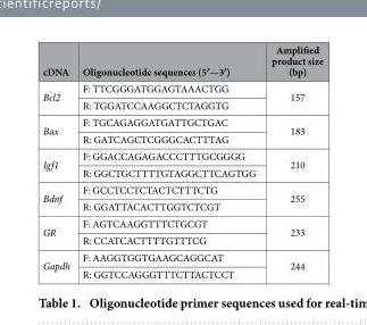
<table><thead><tr><td>cDNA</td><td>Oligonucleotide sequences (5′—3′)</td><td>Amplified product size (bp)</td></tr></thead><tbody><tr><td rowspan="2">Bcl2</td><td>F: TTCGGGATGGAGTAAACTGG</td><td rowspan="2">157</td></tr><tr><td>R: TGGATCCAAGGCTCTAGGTG</td></tr><tr><td rowspan="2">Bax</td><td>F: TGCAGAGGATGATTGCTGAC</td><td rowspan="2">183</td></tr><tr><td>R: GATCAGCTCGGGCACTTTAG</td></tr><tr><td rowspan="2">Igf1</td><td>F: GGACCAGAGACCCTTTGCGGGG</td><td rowspan="2">210</td></tr><tr><td>R: GGCTGCTTTTGTAGGCTTCAGTGG</td></tr><tr><td rowspan="2">Bdnf</td><td>F: GCCTCCTCTACTCTTTCTG</td><td rowspan="2">255</td></tr><tr><td>R: GGATTACACTTGGTCTCGT</td></tr><tr><td rowspan="2">GR</td><td>F: AGTCAAGGTTTCTGCGT</td><td rowspan="2">233</td></tr><tr><td>R: CCATCACTTTTGTTTCG</td></tr><tr><td rowspan="2">Gapdh</td><td>F: AAGGTGGTGAAGCAGGCAT</td><td rowspan="2">244</td></tr><tr><td>R: GGTCCAGGGTTTCTTACTCCT</td></tr></tbody></table>